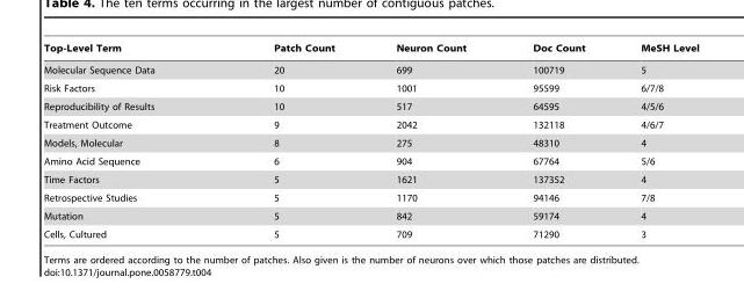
<table><thead><tr><td>Top-Level Term</td><td>Patch Count</td><td>Neuron Count</td><td>Doc Count</td><td>MeSH Level</td></tr></thead><tbody><tr><td>Molecular Sequence Data</td><td>20</td><td>699</td><td>100719</td><td>5</td></tr><tr><td>Risk Factors</td><td>10</td><td>1001</td><td>95599</td><td>6/7/8</td></tr><tr><td>Reproducibility of Results</td><td>10</td><td>517</td><td>64595</td><td>4/5/6</td></tr><tr><td>Treatment Outcome</td><td>9</td><td>2042</td><td>132118</td><td>4/6/7</td></tr><tr><td>Models, Molecular</td><td>8</td><td>275</td><td>48310</td><td>4</td></tr><tr><td>Amino Acid Sequence</td><td>6</td><td>904</td><td>67764</td><td>5/6</td></tr><tr><td>Time Factors</td><td>5</td><td>1621</td><td>137352</td><td>4</td></tr><tr><td>Retrospective Studies</td><td>5</td><td>1170</td><td>94146</td><td>7/8</td></tr><tr><td>Mutation</td><td>5</td><td>842</td><td>59174</td><td>4</td></tr><tr><td>Cells, Cultured</td><td>5</td><td>709</td><td>71290</td><td>3</td></tr></tbody></table>